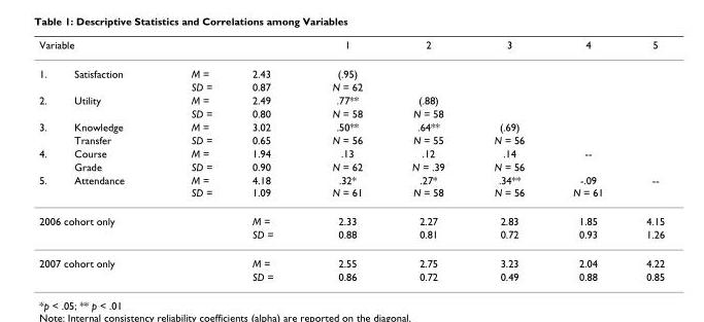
<table><thead><tr><td colspan="4">Variable</td><td rowspan="2">1 (.95)</td><td rowspan="2">2</td><td rowspan="2">3</td><td rowspan="2">4</td><td rowspan="2">5</td></tr><tr><td>1.</td><td>Satisfaction</td><td>M =</td><td>2.43</td></tr></thead><tbody><tr><td></td><td></td><td>SD =</td><td>0.87</td><td>N = 62</td><td></td><td></td><td></td><td></td></tr><tr><td rowspan="2">2.</td><td>Utility</td><td>M =</td><td>2.49</td><td>.77**</td><td>(.88)</td><td></td><td></td><td></td></tr><tr><td></td><td>SD =</td><td>0.80</td><td>N = 58</td><td>N = 58</td><td></td><td></td><td></td></tr><tr><td rowspan="2">3.</td><td>Knowledge</td><td>M =</td><td>3.02</td><td>.50**</td><td>.64**</td><td>(.69)</td><td></td><td></td></tr><tr><td>Transfer</td><td>SD =</td><td>0.65</td><td>N = 56</td><td>N = 55</td><td>N = 56</td><td></td><td></td></tr><tr><td rowspan="2">4.</td><td>Course</td><td>M =</td><td>1.94</td><td>.13</td><td>.12</td><td>.14</td><td>--</td><td></td></tr><tr><td>Grade</td><td>SD =</td><td>0.90</td><td>N = 62</td><td>N = .39</td><td>N = 56</td><td></td><td></td></tr><tr><td>5.</td><td>Attendance</td><td>M = SD =</td><td>4.18 1.09</td><td>.32* N = 61</td><td>.27* N = 58</td><td>.34** N = 56</td><td>-.09 N = 61</td><td>--</td></tr><tr><td colspan="3">2006 cohort only</td><td>M =</td><td>2.33</td><td>2.27</td><td>2.83</td><td>1.85</td><td>4.15</td></tr><tr><td></td><td></td><td></td><td>SD =</td><td>0.88</td><td>0.81</td><td>0.72</td><td>0.93</td><td>1.26</td></tr><tr><td colspan="3">2007 cohort only</td><td>M =</td><td>2.55</td><td>2.75</td><td>3.23</td><td>2.04</td><td>4.22</td></tr><tr><td></td><td></td><td></td><td>SD =</td><td>0.86</td><td>0.72</td><td>0.49</td><td>0.88</td><td>0.85</td></tr></tbody></table>